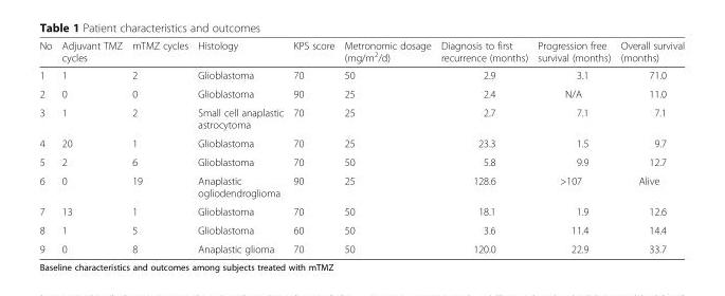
<table><thead><tr><td>No</td><td>Adjuvant TMZ cycles</td><td>mTMZ cycles</td><td>Histology</td><td>KPS score</td><td>Metronomic dosage (mg/m<sup>2</sup>/d)</td><td>Diagnosis to first recurrence (months)</td><td>Progression free survival (months)</td><td>Overall survival (months)</td></tr></thead><tbody><tr><td>1</td><td>1</td><td>2</td><td>Glioblastoma</td><td>70</td><td>50</td><td>2.9</td><td>3.1</td><td>71.0</td></tr><tr><td>2</td><td>0</td><td>0</td><td>Glioblastoma</td><td>90</td><td>25</td><td>2.4</td><td>N/A</td><td>11.0</td></tr><tr><td>3</td><td>1</td><td>2</td><td>Small cell anaplastic astrocytoma</td><td>70</td><td>25</td><td>2.7</td><td>7.1</td><td>7.1</td></tr><tr><td>4</td><td>20</td><td>1</td><td>Glioblastoma</td><td>70</td><td>25</td><td>23.3</td><td>1.5</td><td>9.7</td></tr><tr><td>5</td><td>2</td><td>6</td><td>Glioblastoma</td><td>70</td><td>50</td><td>5.8</td><td>9.9</td><td>12.7</td></tr><tr><td>6</td><td>0</td><td>19</td><td>Anaplastic ogliodendroglioma</td><td>90</td><td>25</td><td>128.6</td><td>&gt;107</td><td>Alive</td></tr><tr><td>7</td><td>13</td><td>1</td><td>Glioblastoma</td><td>70</td><td>50</td><td>18.1</td><td>1.9</td><td>12.6</td></tr><tr><td>8</td><td>1</td><td>5</td><td>Glioblastoma</td><td>60</td><td>50</td><td>3.6</td><td>11.4</td><td>14.4</td></tr><tr><td>9</td><td>0</td><td>8</td><td>Anaplastic glioma</td><td>70</td><td>50</td><td>120.0</td><td>22.9</td><td>33.7</td></tr></tbody></table>